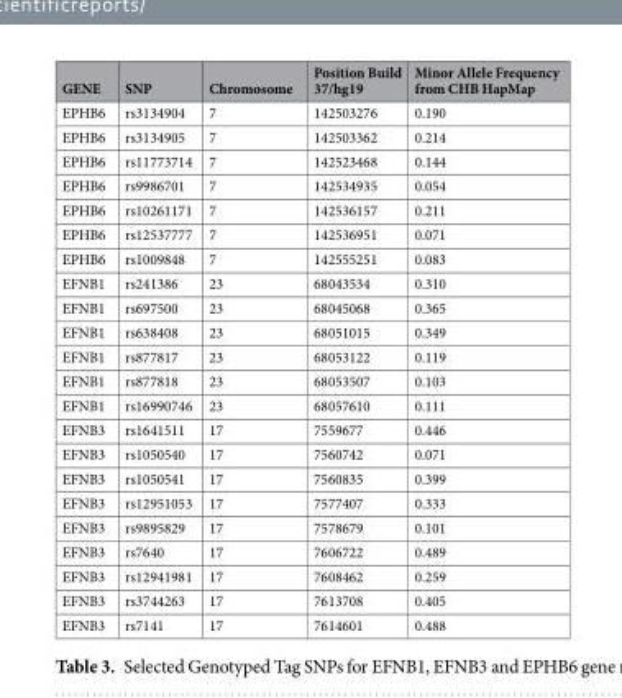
<table><thead><tr><td>GENE</td><td>SNP</td><td>Chromosome</td><td>Position Build 37/hg19</td><td>Minor Allele Frequency from CHB HapMap</td></tr></thead><tbody><tr><td>EPHB6</td><td>rs3134904</td><td>7</td><td>142503276</td><td>0.190</td></tr><tr><td>EPHB6</td><td>rs3134905</td><td>7</td><td>142503362</td><td>0.214</td></tr><tr><td>EPHB6</td><td>rs11773714</td><td>7</td><td>142523468</td><td>0.144</td></tr><tr><td>EPHB6</td><td>rs9986701</td><td>7</td><td>142534935</td><td>0.054</td></tr><tr><td>EPHB6</td><td>rs10261171</td><td>7</td><td>142536157</td><td>0.211</td></tr><tr><td>EPHB6</td><td>rs12537777</td><td>7</td><td>142536951</td><td>0.071</td></tr><tr><td>EPHB6</td><td>rs1009848</td><td>7</td><td>142555251</td><td>0.083</td></tr><tr><td>EFNB1</td><td>rs241386</td><td>23</td><td>68043534</td><td>0.310</td></tr><tr><td>EFNB1</td><td>rs697500</td><td>23</td><td>68045068</td><td>0.365</td></tr><tr><td>EFNB1</td><td>rs638408</td><td>23</td><td>68051015</td><td>0.349</td></tr><tr><td>EFNB1</td><td>rs877817</td><td>23</td><td>68053122</td><td>0.119</td></tr><tr><td>EFNB1</td><td>rs877818</td><td>23</td><td>68053507</td><td>0.103</td></tr><tr><td>EFNB1</td><td>rs16990746</td><td>23</td><td>68057610</td><td>0.111</td></tr><tr><td>EFNB3</td><td>rs1641511</td><td>17</td><td>7559677</td><td>0.446</td></tr><tr><td>EFNB3</td><td>rs1050540</td><td>17</td><td>7560742</td><td>0.071</td></tr><tr><td>EFNB3</td><td>rs1050541</td><td>17</td><td>7560835</td><td>0.399</td></tr><tr><td>EFNB3</td><td>rs12951053</td><td>17</td><td>7577407</td><td>0.333</td></tr><tr><td>EFNB3</td><td>rs9895829</td><td>17</td><td>7578679</td><td>0.101</td></tr><tr><td>EFNB3</td><td>rs7640</td><td>17</td><td>7606722</td><td>0.489</td></tr><tr><td>EFNB3</td><td>rs12941981</td><td>17</td><td>7608462</td><td>0.259</td></tr><tr><td>EFNB3</td><td>rs3744263</td><td>17</td><td>7613708</td><td>0.405</td></tr><tr><td>EFNB3</td><td>rs7141</td><td>17</td><td>7614601</td><td>0.488</td></tr></tbody></table>